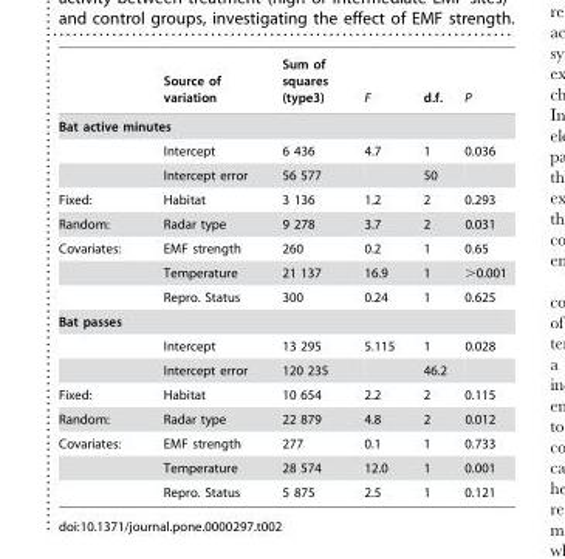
<table><thead><tr><td></td><td>Source of variation</td><td>Sum of squares (type3)</td><td>F</td><td>d.f.</td><td>P</td></tr></thead><tbody><tr><td colspan="6">Bat active minutes</td></tr><tr><td></td><td>Intercept</td><td>6 436</td><td>4.7</td><td>1</td><td>0.036</td></tr><tr><td></td><td>Intercept error</td><td>56 577</td><td></td><td>50</td><td></td></tr><tr><td>Fixed:</td><td>Habitat</td><td>3 136</td><td>1.2</td><td>2</td><td>0.293</td></tr><tr><td>Random:</td><td>Radar type</td><td>9 278</td><td>3.7</td><td>2</td><td>0.031</td></tr><tr><td rowspan="3">Covariates:</td><td>EMF strength</td><td>260</td><td>0.2</td><td>1</td><td>0.65</td></tr><tr><td>Temperature</td><td>21 137</td><td>16.9</td><td>1</td><td>&gt;0.001</td></tr><tr><td>Repro. Status</td><td>300</td><td>0.24</td><td>1</td><td>0.625</td></tr><tr><td colspan="6">Bat passes</td></tr><tr><td></td><td>Intercept</td><td>13 295</td><td>5.115</td><td>1</td><td>0.028</td></tr><tr><td></td><td>Intercept error</td><td>120 235</td><td></td><td>46.2</td><td></td></tr><tr><td>Fixed:</td><td>Habitat</td><td>10 654</td><td>2.2</td><td>2</td><td>0.115</td></tr><tr><td>Random:</td><td>Radar type</td><td>22 879</td><td>4.8</td><td>2</td><td>0.012</td></tr><tr><td rowspan="3">Covariates:</td><td>EMF strength</td><td>277</td><td>0.1</td><td>1</td><td>0.733</td></tr><tr><td>Temperature</td><td>28 574</td><td>12.0</td><td>1</td><td>0.001</td></tr><tr><td>Repro. Status</td><td>5 875</td><td>2.5</td><td>1</td><td>0.121</td></tr></tbody></table>